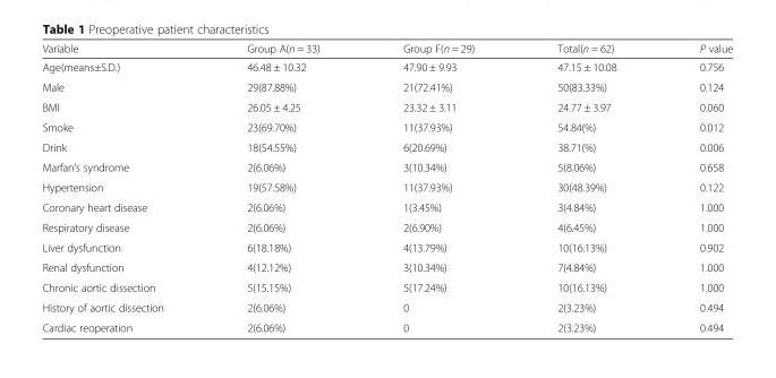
<table><thead><tr><td>Variable</td><td>Group A(n = 33)</td><td>Group F(n = 29)</td><td>Total(n = 62)</td><td>P value</td></tr></thead><tbody><tr><td>Age(means±S.D.)</td><td>46.48 ± 10.32</td><td>47.90 ± 9.93</td><td>47.15 ± 10.08</td><td>0.756</td></tr><tr><td>Male</td><td>29(87.88%)</td><td>21(72.41%)</td><td>50(83.33%)</td><td>0.124</td></tr><tr><td>BMI</td><td>26.05 ± 4.25</td><td>23.32 ± 3.11</td><td>24.77 ± 3.97</td><td>0.060</td></tr><tr><td>Smoke</td><td>23(69.70%)</td><td>11(37.93%)</td><td>54.84(%)</td><td>0.012</td></tr><tr><td>Drink</td><td>18(54.55%)</td><td>6(20.69%)</td><td>38.71(%)</td><td>0.006</td></tr><tr><td>Marfan’s syndrome</td><td>2(6.06%)</td><td>3(10.34%)</td><td>5(8.06%)</td><td>0.658</td></tr><tr><td>Hypertension</td><td>19(57.58%)</td><td>11(37.93%)</td><td>30(48.39%)</td><td>0.122</td></tr><tr><td>Coronary heart disease</td><td>2(6.06%)</td><td>1(3.45%)</td><td>3(4.84%)</td><td>1.000</td></tr><tr><td>Respiratory disease</td><td>2(6.06%)</td><td>2(6.90%)</td><td>4(6.45%)</td><td>1.000</td></tr><tr><td>Liver dysfunction</td><td>6(18.18%)</td><td>4(13.79%)</td><td>10(16.13%)</td><td>0.902</td></tr><tr><td>Renal dysfunction</td><td>4(12.12%)</td><td>3(10.34%)</td><td>7(4.84%)</td><td>1.000</td></tr><tr><td>Chronic aortic dissection</td><td>5(15.15%)</td><td>5(17.24%)</td><td>10(16.13%)</td><td>1.000</td></tr><tr><td>History of aortic dissection</td><td>2(6.06%)</td><td>0</td><td>2(3.23%)</td><td>0.494</td></tr><tr><td>Cardiac reoperation</td><td>2(6.06%)</td><td>0</td><td>2(3.23%)</td><td>0.494</td></tr></tbody></table>